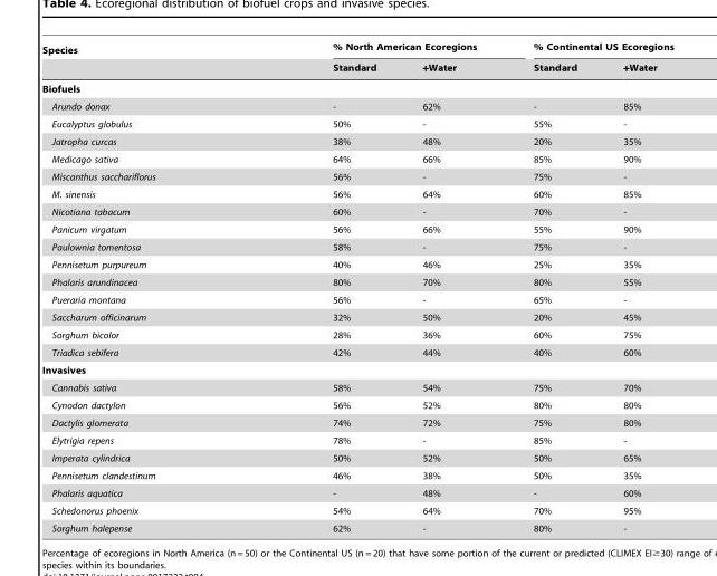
<table><thead><tr><td rowspan="2">Species</td><td colspan="2">% North American Ecoregions</td><td colspan="2">% Continental US Ecoregions</td></tr><tr><td>Standard</td><td>+Water</td><td>Standard</td><td>+Water</td></tr></thead><tbody><tr><td colspan="5">Biofuels</td></tr><tr><td>Arundo donax</td><td>-</td><td>62%</td><td>-</td><td>85%</td></tr><tr><td>Eucalyptus globulus</td><td>50%</td><td>-</td><td>55%</td><td>-</td></tr><tr><td>Jatropha curcas</td><td>38%</td><td>48%</td><td>20%</td><td>35%</td></tr><tr><td>Medicago sativa</td><td>64%</td><td>66%</td><td>85%</td><td>90%</td></tr><tr><td>Miscanthus sacchariflorus</td><td>56%</td><td>-</td><td>75%</td><td>-</td></tr><tr><td>M. sinensis</td><td>56%</td><td>64%</td><td>60%</td><td>85%</td></tr><tr><td>Nicotiana tabacum</td><td>60%</td><td>-</td><td>70%</td><td>-</td></tr><tr><td>Panicum virgatum</td><td>56%</td><td>66%</td><td>55%</td><td>90%</td></tr><tr><td>Paulownia tomentosa</td><td>58%</td><td>-</td><td>75%</td><td>-</td></tr><tr><td>Pennisetum purpureum</td><td>40%</td><td>46%</td><td>25%</td><td>35%</td></tr><tr><td>Phalaris arundinacea</td><td>80%</td><td>70%</td><td>80%</td><td>55%</td></tr><tr><td>Pueraria montana</td><td>56%</td><td>-</td><td>65%</td><td>-</td></tr><tr><td>Saccharum officinarum</td><td>32%</td><td>50%</td><td>20%</td><td>45%</td></tr><tr><td>Sorghum bicolor</td><td>28%</td><td>36%</td><td>60%</td><td>75%</td></tr><tr><td>Triadica sebifera</td><td>42%</td><td>44%</td><td>40%</td><td>60%</td></tr><tr><td colspan="5">Invasives</td></tr><tr><td>Cannabis sativa</td><td>58%</td><td>54%</td><td>75%</td><td>70%</td></tr><tr><td>Cynodon dactylon</td><td>56%</td><td>52%</td><td>80%</td><td>80%</td></tr><tr><td>Dactylis glomerata</td><td>74%</td><td>72%</td><td>75%</td><td>80%</td></tr><tr><td>Elytrigia repens</td><td>78%</td><td>-</td><td>85%</td><td>-</td></tr><tr><td>Imperata cylindrica</td><td>50%</td><td>52%</td><td>50%</td><td>65%</td></tr><tr><td>Pennisetum clandestinum</td><td>46%</td><td>38%</td><td>50%</td><td>35%</td></tr><tr><td>Phalaris aquatica</td><td>-</td><td>48%</td><td>-</td><td>60%</td></tr><tr><td>Schedonorus phoenix</td><td>54%</td><td>64%</td><td>70%</td><td>95%</td></tr><tr><td>Sorghum halepense</td><td>62%</td><td>-</td><td>80%</td><td>-</td></tr></tbody></table>